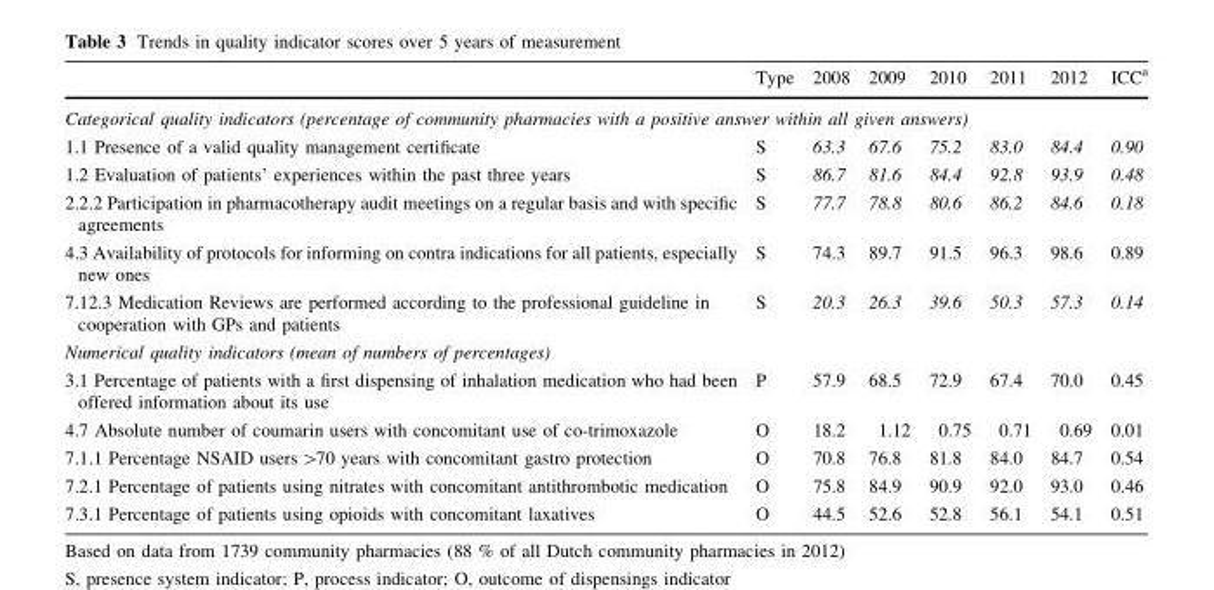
<table><thead><tr><td></td><td>Type</td><td>2008</td><td>2009</td><td>2010</td><td>2011</td><td>2012</td><td>ICC<sup>a</sup></td></tr></thead><tbody><tr><td colspan="8">Categorical quality indicators (percentage of community pharmacies with a positive answer within all given answers)</td></tr><tr><td>1.1 Presence of a valid quality management certificate</td><td>S</td><td>63.3</td><td>67.6</td><td>75.2</td><td>83.0</td><td>84.4</td><td>0.90</td></tr><tr><td>1.2 Evaluation of patients’ experiences within the past three years</td><td>S</td><td>86.7</td><td>81.6</td><td>84.4</td><td>92.8</td><td>93.9</td><td>0.48</td></tr><tr><td>2.2.2 Participation in pharmacotherapy audit meetings on a regular basis and with specific agreements</td><td>S</td><td>77.7</td><td>78.8</td><td>80.6</td><td>86.2</td><td>84.6</td><td>0.18</td></tr><tr><td>4.3 Availability of protocols for informing on contra indications for all patients, especially new ones</td><td>S</td><td>74.3</td><td>89.7</td><td>91.5</td><td>96.3</td><td>98.6</td><td>0.89</td></tr><tr><td>7.12.3 Medication Reviews are performed according to the professional guideline in cooperation with GPs and patients</td><td>S</td><td>20.3</td><td>26.3</td><td>39.6</td><td>50.3</td><td>57.3</td><td>0.14</td></tr><tr><td colspan="8">Numerical quality indicators (mean of numbers of percentages)</td></tr><tr><td>3.1 Percentage of patients with a first dispensing of inhalation medication who had been offered information about its use</td><td>P</td><td>57.9</td><td>68.5</td><td>72.9</td><td>67.4</td><td>70.0</td><td>0.45</td></tr><tr><td>4.7 Absolute number of coumarin users with concomitant use of co-trimoxazole</td><td>O</td><td>18.2</td><td>1.12</td><td>0.75</td><td>0.71</td><td>0.69</td><td>0.01</td></tr><tr><td>7.1.1 Percentage NSAID users &gt;70 years with concomitant gastro protection</td><td>O</td><td>70.8</td><td>76.8</td><td>81.8</td><td>84.0</td><td>84.7</td><td>0.54</td></tr><tr><td>7.2.1 Percentage of patients using nitrates with concomitant antithrombotic medication</td><td>O</td><td>75.8</td><td>84.9</td><td>90.9</td><td>92.0</td><td>93.0</td><td>0.46</td></tr><tr><td>7.3.1 Percentage of patients using opioids with concomitant laxatives</td><td>O</td><td>44.5</td><td>52.6</td><td>52.8</td><td>56.1</td><td>54.1</td><td>0.51</td></tr></tbody></table>